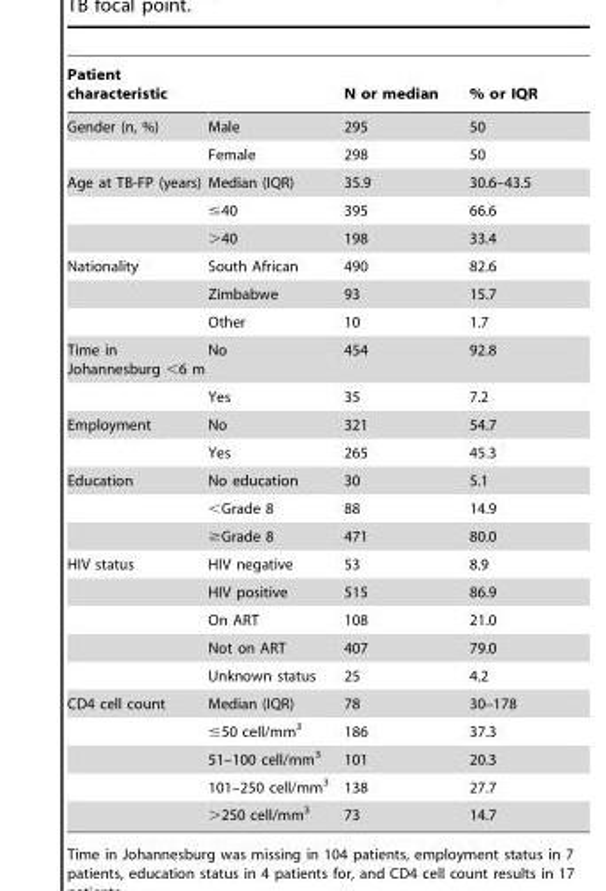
<table><thead><tr><td>Patient characteristic</td><td></td><td>N or median</td><td>% or IQR</td></tr></thead><tbody><tr><td rowspan="2">Gender (n, %)</td><td>Male</td><td>295</td><td>50</td></tr><tr><td>Female</td><td>298</td><td>50</td></tr><tr><td rowspan="3">Age at TB-FP (years)</td><td>Median (IQR)</td><td>35.9</td><td>30.6–43.5</td></tr><tr><td>≤40</td><td>395</td><td>66.6</td></tr><tr><td>&gt;40</td><td>198</td><td>33.4</td></tr><tr><td rowspan="3">Nationality</td><td>South African</td><td>490</td><td>82.6</td></tr><tr><td>Zimbabwe</td><td>93</td><td>15.7</td></tr><tr><td>Other</td><td>10</td><td>1.7</td></tr><tr><td rowspan="2">Time in Johannesburg &lt;6 m</td><td>No</td><td>454</td><td>92.8</td></tr><tr><td>Yes</td><td>35</td><td>7.2</td></tr><tr><td rowspan="2">Employment</td><td>No</td><td>321</td><td>54.7</td></tr><tr><td>Yes</td><td>265</td><td>45.3</td></tr><tr><td rowspan="3">Education</td><td>No education</td><td>30</td><td>5.1</td></tr><tr><td>&lt;Grade 8</td><td>88</td><td>14.9</td></tr><tr><td>≥Grade 8</td><td>471</td><td>80.0</td></tr><tr><td rowspan="5">HIV status</td><td>HIV negative</td><td>53</td><td>8.9</td></tr><tr><td>HIV positive</td><td>515</td><td>86.9</td></tr><tr><td>On ART</td><td>108</td><td>21.0</td></tr><tr><td>Not on ART</td><td>407</td><td>79.0</td></tr><tr><td>Unknown status</td><td>25</td><td>4.2</td></tr><tr><td rowspan="5">CD4 cell count</td><td>Median (IQR)</td><td>78</td><td>30–178</td></tr><tr><td>≤50 cell/mm<sup>3</sup></td><td>186</td><td>37.3</td></tr><tr><td>51–100 cell/mm<sup>3</sup></td><td>101</td><td>20.3</td></tr><tr><td>101–250 cell/mm<sup>3</sup></td><td>138</td><td>27.7</td></tr><tr><td>&gt;250 cell/mm<sup>3</sup></td><td>73</td><td>14.7</td></tr></tbody></table>